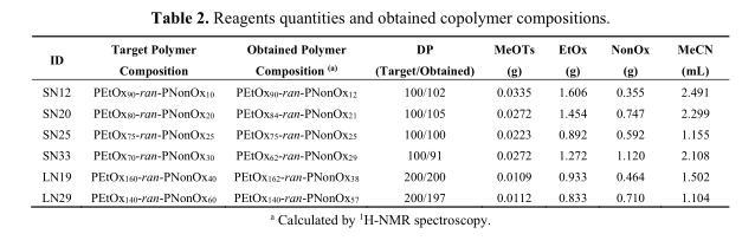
<table><thead><tr><td>ID</td><td>Target Polymer Composition</td><td>Obtained Polymer Composition <sup>(a)</sup></td><td>DP (Target/Obtained)</td><td>MeOTs (g)</td><td>EtOx (g)</td><td>NonOx (g)</td><td>MeCN (mL)</td></tr></thead><tbody><tr><td>SN12</td><td>PEtOx<sub>90</sub>-ran-PNonOx<sub>10</sub></td><td>PEtOx<sub>90</sub>-ran-PNonOx<sub>12</sub></td><td>100/102</td><td>0.0335</td><td>1.606</td><td>0.355</td><td>2.491</td></tr><tr><td>SN20</td><td>PEtOx<sub>80</sub>-ran-PNonOx<sub>20</sub></td><td>PEtOx<sub>84</sub>-ran-PNonOx<sub>21</sub></td><td>100/105</td><td>0.0272</td><td>1.454</td><td>0.747</td><td>2.299</td></tr><tr><td>SN25</td><td>PEtOx<sub>75</sub>-ran-PNonOx<sub>25</sub></td><td>PEtOx<sub>75</sub>-ran-PNonOx<sub>25</sub></td><td>100/100</td><td>0.0223</td><td>0.892</td><td>0.592</td><td>1.155</td></tr><tr><td>SN33</td><td>PEtOx<sub>70</sub>-ran-PNonOx<sub>30</sub></td><td>PEtOx<sub>62</sub>-ran-PNonOx<sub>29</sub></td><td>100/91</td><td>0.0272</td><td>1.272</td><td>1.120</td><td>2.108</td></tr><tr><td>LN19</td><td>PEtOx<sub>160</sub>-ran-PNonOx<sub>40</sub></td><td>PEtOx<sub>162</sub>-ran-PNonOx<sub>38</sub></td><td>200/200</td><td>0.0109</td><td>0.933</td><td>0.464</td><td>1.502</td></tr><tr><td>LN29</td><td>PEtOx<sub>140</sub>-ran-PNonOx<sub>60</sub></td><td>PEtOx<sub>140</sub>-ran-PNonOx<sub>57</sub></td><td>200/197</td><td>0.0112</td><td>0.833</td><td>0.710</td><td>1.104</td></tr></tbody></table>